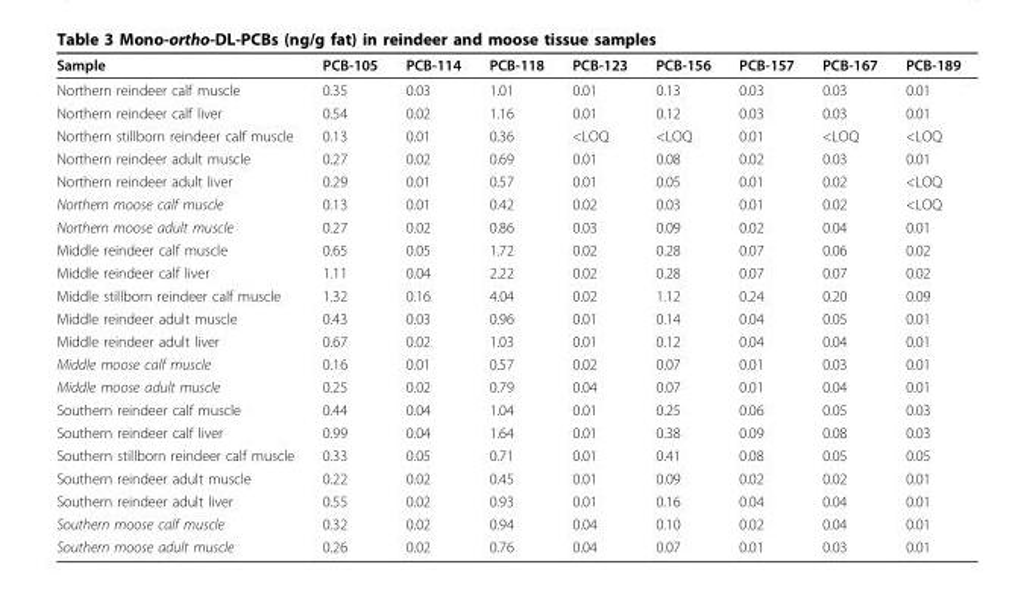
<table><thead><tr><td>Sample</td><td>PCB-105</td><td>PCB-114</td><td>PCB-118</td><td>PCB-123</td><td>PCB-156</td><td>PCB-157</td><td>PCB-167</td><td>PCB-189</td></tr></thead><tbody><tr><td>Northern reindeer calf muscle</td><td>0.35</td><td>0.03</td><td>1.01</td><td>0.01</td><td>0.13</td><td>0.03</td><td>0.03</td><td>0.01</td></tr><tr><td>Northern reindeer calf liver</td><td>0.54</td><td>0.02</td><td>1.16</td><td>0.01</td><td>0.12</td><td>0.03</td><td>0.03</td><td>0.01</td></tr><tr><td>Northern stillborn reindeer calf muscle</td><td>0.13</td><td>0.01</td><td>0.36</td><td>&lt;LOQ</td><td>&lt;LOQ</td><td>0.01</td><td>&lt;LOQ</td><td>&lt;LOQ</td></tr><tr><td>Northern reindeer adult muscle</td><td>0.27</td><td>0.02</td><td>0.69</td><td>0.01</td><td>0.08</td><td>0.02</td><td>0.03</td><td>0.01</td></tr><tr><td>Northern reindeer adult liver</td><td>0.29</td><td>0.01</td><td>0.57</td><td>0.01</td><td>0.05</td><td>0.01</td><td>0.02</td><td>&lt;LOQ</td></tr><tr><td>Northern moose calf muscle</td><td>0.13</td><td>0.01</td><td>0.42</td><td>0.02</td><td>0.03</td><td>0.01</td><td>0.02</td><td>&lt;LOQ</td></tr><tr><td>Northern moose adult muscle</td><td>0.27</td><td>0.02</td><td>0.86</td><td>0.03</td><td>0.09</td><td>0.02</td><td>0.04</td><td>0.01</td></tr><tr><td>Middle reindeer calf muscle</td><td>0.65</td><td>0.05</td><td>1.72</td><td>0.02</td><td>0.28</td><td>0.07</td><td>0.06</td><td>0.02</td></tr><tr><td>Middle reindeer calf liver</td><td>1.11</td><td>0.04</td><td>2.22</td><td>0.02</td><td>0.28</td><td>0.07</td><td>0.07</td><td>0.02</td></tr><tr><td>Middle stillborn reindeer calf muscle</td><td>1.32</td><td>0.16</td><td>4.04</td><td>0.02</td><td>1.12</td><td>0.24</td><td>0.20</td><td>0.09</td></tr><tr><td>Middle reindeer adult muscle</td><td>0.43</td><td>0.03</td><td>0.96</td><td>0.01</td><td>0.14</td><td>0.04</td><td>0.05</td><td>0.01</td></tr><tr><td>Middle reindeer adult liver</td><td>0.67</td><td>0.02</td><td>1.03</td><td>0.01</td><td>0.12</td><td>0.04</td><td>0.04</td><td>0.01</td></tr><tr><td>Middle moose calf muscle</td><td>0.16</td><td>0.01</td><td>0.57</td><td>0.02</td><td>0.07</td><td>0.01</td><td>0.03</td><td>0.01</td></tr><tr><td>Middle moose adult muscle</td><td>0.25</td><td>0.02</td><td>0.79</td><td>0.04</td><td>0.07</td><td>0.01</td><td>0.04</td><td>0.01</td></tr><tr><td>Southern reindeer calf muscle</td><td>0.44</td><td>0.04</td><td>1.04</td><td>0.01</td><td>0.25</td><td>0.06</td><td>0.05</td><td>0.03</td></tr><tr><td>Southern reindeer calf liver</td><td>0.99</td><td>0.04</td><td>1.64</td><td>0.01</td><td>0.38</td><td>0.09</td><td>0.08</td><td>0.03</td></tr><tr><td>Southern stillborn reindeer calf muscle</td><td>0.33</td><td>0.05</td><td>0.71</td><td>0.01</td><td>0.41</td><td>0.08</td><td>0.05</td><td>0.05</td></tr><tr><td>Southern reindeer adult muscle</td><td>0.22</td><td>0.02</td><td>0.45</td><td>0.01</td><td>0.09</td><td>0.02</td><td>0.02</td><td>0.01</td></tr><tr><td>Southern reindeer adult liver</td><td>0.55</td><td>0.02</td><td>0.93</td><td>0.01</td><td>0.16</td><td>0.04</td><td>0.04</td><td>0.01</td></tr><tr><td>Southern moose calf muscle</td><td>0.32</td><td>0.02</td><td>0.94</td><td>0.04</td><td>0.10</td><td>0.02</td><td>0.04</td><td>0.01</td></tr><tr><td>Southern moose adult muscle</td><td>0.26</td><td>0.02</td><td>0.76</td><td>0.04</td><td>0.07</td><td>0.01</td><td>0.03</td><td>0.01</td></tr></tbody></table>